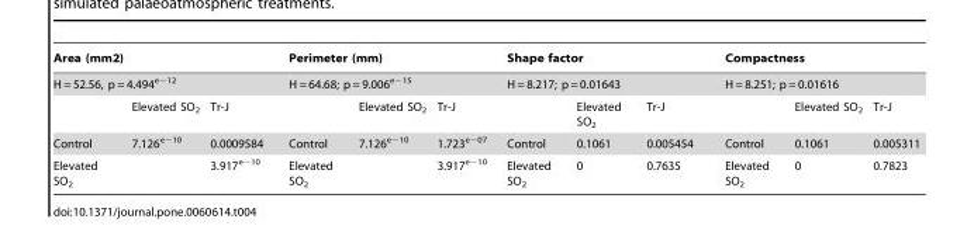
<table><thead><tr><td rowspan="2" colspan="3">Area (mm2) H = 52.56, p = 4.494<sup>e−12</sup></td><td rowspan="2" colspan="3">Perimeter (mm) H = 64.68; p = 9.006<sup>e−15</sup></td><td rowspan="2" colspan="3">Shape factor H = 8.217; p = 0.01643</td><td rowspan="2" colspan="3">Compactness H = 8.251; p = 0.01616</td></tr><tr></tr><tr><td></td><td>Elevated SO<sub>2</sub></td><td>Tr-J</td><td></td><td>Elevated SO<sub>2</sub></td><td>Tr-J</td><td></td><td>Elevated SO<sub>2</sub></td><td>Tr-J</td><td></td><td>Elevated SO<sub>2</sub></td><td>Tr-J</td></tr></thead><tbody><tr><td>Control</td><td>7.126<sup>e−10</sup></td><td>0.0009584</td><td>Control</td><td>7.126<sup>e−10</sup></td><td>1.723<sup>e−07</sup></td><td>Control</td><td>0.1061</td><td>0.005454</td><td>Control</td><td>0.1061</td><td>0.005311</td></tr><tr><td>Elevated SO<sub>2</sub></td><td></td><td>3.917<sup>e−10</sup></td><td>Elevated SO<sub>2</sub></td><td></td><td>3.917<sup>e−10</sup></td><td>Elevated SO<sub>2</sub></td><td>0</td><td>0.7635</td><td>Elevated SO<sub>2</sub></td><td>0</td><td>0.7823</td></tr></tbody></table>